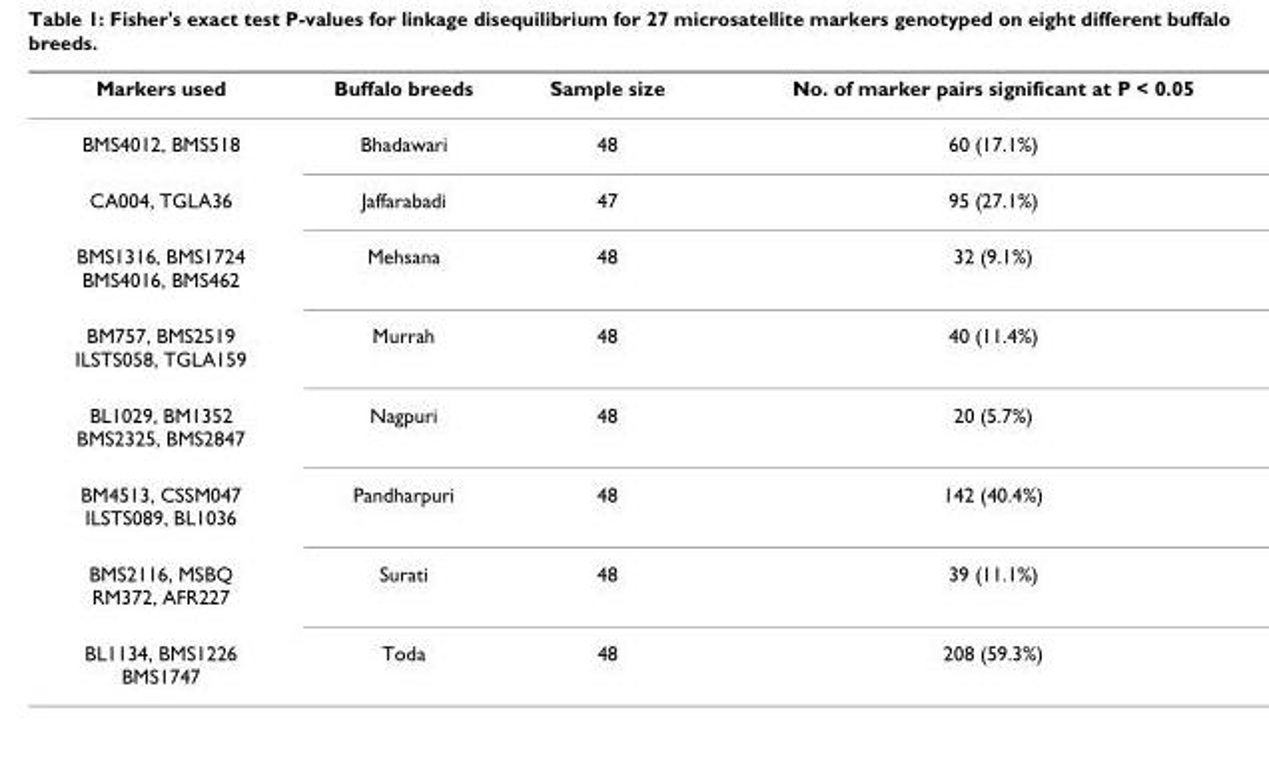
<table><thead><tr><td>Markers used</td><td>Buffalo breeds</td><td>Sample size</td><td>No. of marker pairs significant at P &lt; 0.05</td></tr></thead><tbody><tr><td>BMS4012, BMS518</td><td>Bhadawari</td><td>48</td><td>60 (17.1%)</td></tr><tr><td>CA004, TGLA36</td><td>Jaffarabadi</td><td>47</td><td>95 (27.1%)</td></tr><tr><td>BMS1316, BMS1724 BMS4016, BMS462</td><td>Mehsana</td><td>48</td><td>32 (9.1%)</td></tr><tr><td>BM757, BMS2519 ILSTS058, TGLA159</td><td>Murrah</td><td>48</td><td>40 (11.4%)</td></tr><tr><td>BL1029, BM1352 BMS2325, BMS2847</td><td>Nagpuri</td><td>48</td><td>20 (5.7%)</td></tr><tr><td>BM4513, CSSM047 ILSTS089, BL1036</td><td>Pandharpuri</td><td>48</td><td>142 (40.4%)</td></tr><tr><td>BMS2116, MSBQ RM372, AFR227</td><td>Surati</td><td>48</td><td>39 (11.1%)</td></tr><tr><td>BL1134, BMS1226 BMS1747</td><td>Toda</td><td>48</td><td>208 (59.3%)</td></tr></tbody></table>